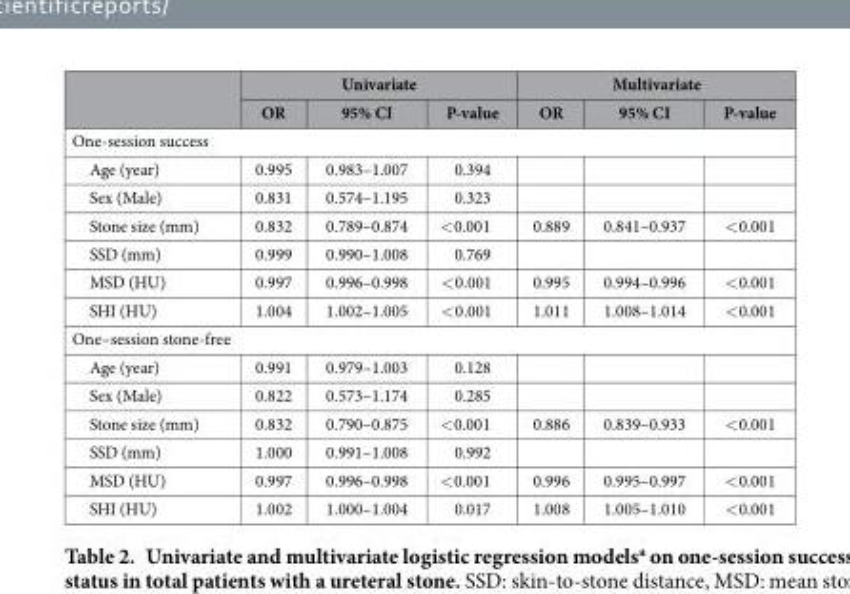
<table><thead><tr><td rowspan="2"></td><td colspan="3">Univariate</td><td colspan="3">Multivariate</td></tr><tr><td>OR</td><td>95% CI</td><td>P-value</td><td>OR</td><td>95% CI</td><td>P-value</td></tr></thead><tbody><tr><td colspan="7">One-session success</td></tr><tr><td>Age (year)</td><td>0.995</td><td>0.983–1.007</td><td>0.394</td><td></td><td></td><td></td></tr><tr><td>Sex (Male)</td><td>0.831</td><td>0.574–1.195</td><td>0.323</td><td></td><td></td><td></td></tr><tr><td>Stone size (mm)</td><td>0.832</td><td>0.789–0.874</td><td>&lt; 0.001</td><td>0.889</td><td>0.841–0.937</td><td>&lt; 0.001</td></tr><tr><td>SSD (mm)</td><td>0.999</td><td>0.990–1.008</td><td>0.769</td><td></td><td></td><td></td></tr><tr><td>MSD (HU)</td><td>0.997</td><td>0.996–0.998</td><td>&lt; 0.001</td><td>0.995</td><td>0.994–0.996</td><td>&lt; 0.001</td></tr><tr><td>SHI (HU)</td><td>1.004</td><td>1.002–1.005</td><td>&lt; 0.001</td><td>1.011</td><td>1.008–1.014</td><td>&lt; 0.001</td></tr><tr><td colspan="7">One–session stone-free</td></tr><tr><td>Age (year)</td><td>0.991</td><td>0.979–1.003</td><td>0.128</td><td></td><td></td><td></td></tr><tr><td>Sex (Male)</td><td>0.822</td><td>0.573–1.174</td><td>0.285</td><td></td><td></td><td></td></tr><tr><td>Stone size (mm)</td><td>0.832</td><td>0.790–0.875</td><td>&lt; 0.001</td><td>0.886</td><td>0.839–0.933</td><td>&lt; 0.001</td></tr><tr><td>SSD (mm)</td><td>1.000</td><td>0.991–1.008</td><td>0.992</td><td></td><td></td><td></td></tr><tr><td>MSD (HU)</td><td>0.997</td><td>0.996–0.998</td><td>&lt; 0.001</td><td>0.996</td><td>0.995–0.997</td><td>&lt; 0.001</td></tr><tr><td>SHI (HU)</td><td>1.002</td><td>1.000–1.004</td><td>0.017</td><td>1.008</td><td>1.005–1.010</td><td>&lt; 0.001</td></tr></tbody></table>